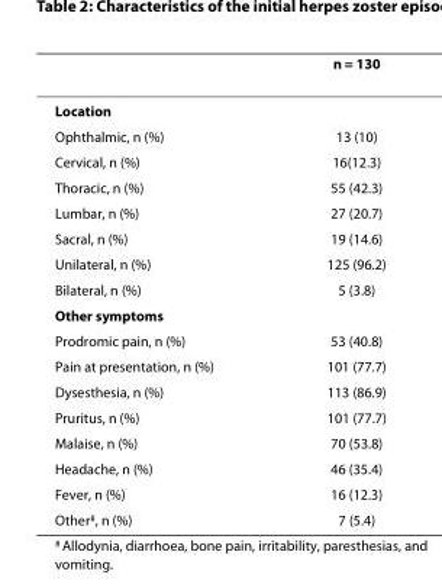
<table><thead><tr><td></td><td>n = 130</td></tr></thead><tbody><tr><td colspan="2">Location</td></tr><tr><td>Ophthalmic, n (%)</td><td>13 (10)</td></tr><tr><td>Cervical, n (%)</td><td>16(12.3)</td></tr><tr><td>Thoracic, n (%)</td><td>55 (42.3)</td></tr><tr><td>Lumbar, n (%)</td><td>27 (20.7)</td></tr><tr><td>Sacral, n (%)</td><td>19 (14.6)</td></tr><tr><td>Unilateral, n (%)</td><td>125 (96.2)</td></tr><tr><td>Bilateral, n (%)</td><td>5 (3.8)</td></tr><tr><td colspan="2">Other symptoms</td></tr><tr><td>Prodromic pain, n (%)</td><td>53 (40.8)</td></tr><tr><td>Pain at presentation, n (%)</td><td>101 (77.7)</td></tr><tr><td>Dysesthesia, n (%)</td><td>113 (86.9)</td></tr><tr><td>Pruritus, n (%)</td><td>101 (77.7)</td></tr><tr><td>Malaise, n (%)</td><td>70 (53.8)</td></tr><tr><td>Headache, n (%)</td><td>46 (35.4)</td></tr><tr><td>Fever, n (%)</td><td>16 (12.3)</td></tr><tr><td>Other<sup>#</sup>, n (%)</td><td>7 (5.4)</td></tr></tbody></table>